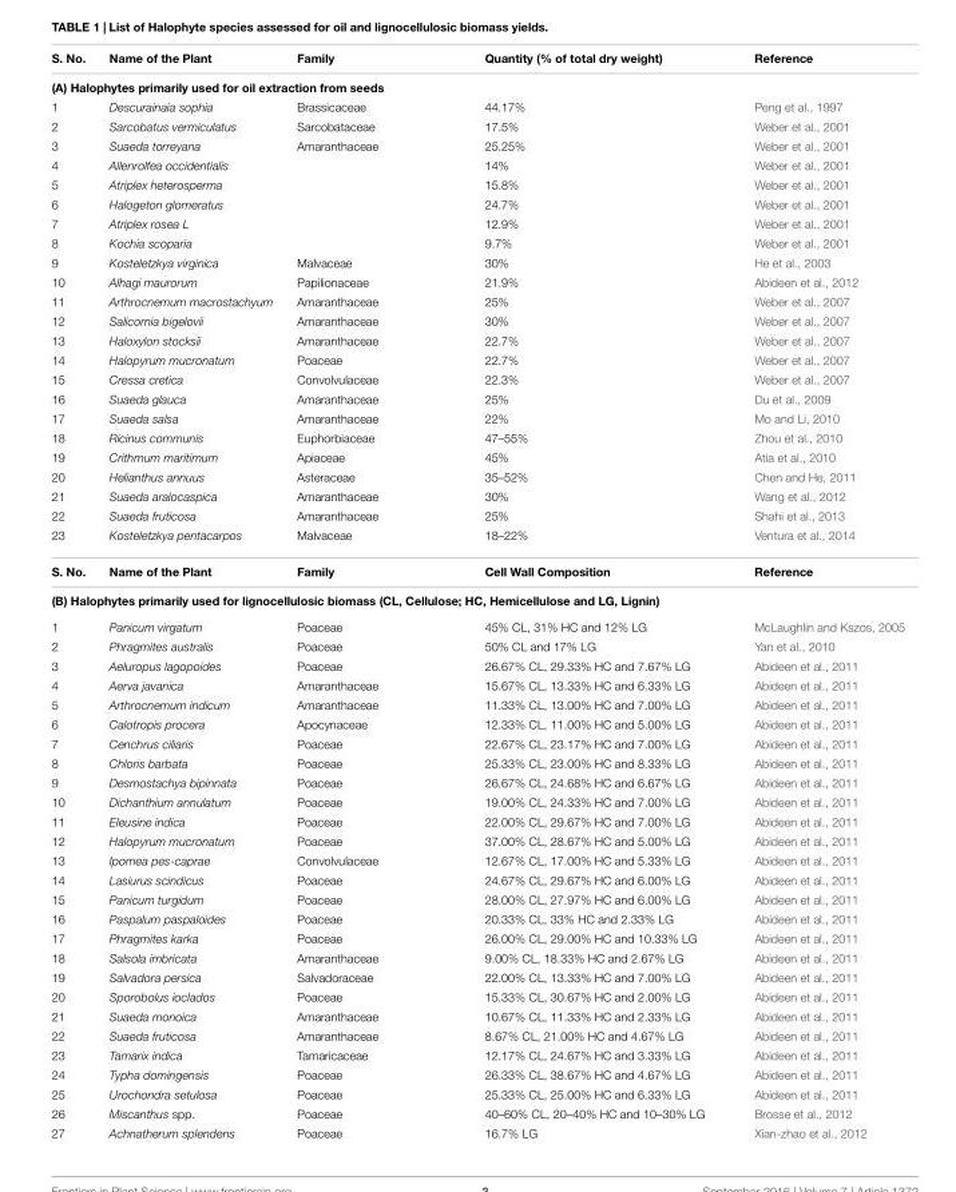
<table><thead><tr><td>S. No.</td><td>Name of the Plant</td><td>Family</td><td>Quantity (% of total dry weight)</td><td>Reference</td></tr></thead><tbody><tr><td colspan="5">(A) Halophytes primarily used for oil extraction from seeds</td></tr><tr><td>1</td><td>Descurainaia sophia</td><td>Brassicaceae</td><td>44.17%</td><td>Peng et al., 1997</td></tr><tr><td>2</td><td>Sarcobatus vermiculatus</td><td>Sarcobataceae</td><td>17.5%</td><td>Weber et al., 2001</td></tr><tr><td>3</td><td>Suaeda torreyana</td><td>Amaranthaceae</td><td>25.25%</td><td>Weber et al., 2001</td></tr><tr><td>4</td><td>Allenrolfea occidentialis</td><td></td><td>14%</td><td>Weber et al., 2001</td></tr><tr><td>5</td><td>Atriplex heterosperma</td><td></td><td>15.8%</td><td>Weber et al., 2001</td></tr><tr><td>6</td><td>Halogeton glomeratus</td><td></td><td>24.7%</td><td>Weber et al., 2001</td></tr><tr><td>7</td><td>Atriplex rosea L</td><td></td><td>12.9%</td><td>Weber et al., 2001</td></tr><tr><td>8</td><td>Kochia scoparia</td><td></td><td>9.7%</td><td>Weber et al., 2001</td></tr><tr><td>9</td><td>Kosteletzkya virginica</td><td>Malvaceae</td><td>30%</td><td>He et al., 2003</td></tr><tr><td>10</td><td>Alhagi maurorum</td><td>Papilionaceae</td><td>21.9%</td><td>Abideen et al., 2012</td></tr><tr><td>11</td><td>Arthrocnemum macrostachyum</td><td>Amaranthaceae</td><td>25%</td><td>Weber et al., 2007</td></tr><tr><td>12</td><td>Salicornia bigelovii</td><td>Amaranthaceae</td><td>30%</td><td>Weber et al., 2007</td></tr><tr><td>13</td><td>Haloxylon stocksii</td><td>Amaranthaceae</td><td>22.7%</td><td>Weber et al., 2007</td></tr><tr><td>14</td><td>Halopyrum mucronatum</td><td>Poaceae</td><td>22.7%</td><td>Weber et al., 2007</td></tr><tr><td>15</td><td>Cressa cretica</td><td>Convolvulaceae</td><td>22.3%</td><td>Weber et al., 2007</td></tr><tr><td>16</td><td>Suaeda glauca</td><td>Amaranthaceae</td><td>25%</td><td>Du et al., 2009</td></tr><tr><td>17</td><td>Suaeda salsa</td><td>Amaranthaceae</td><td>22%</td><td>Mo and Li, 2010</td></tr><tr><td>18</td><td>Ricinus communis</td><td>Euphorbiaceae</td><td>47–55%</td><td>Zhou et al., 2010</td></tr><tr><td>19</td><td>Crithmum maritimum</td><td>Apiaceae</td><td>45%</td><td>Atia et al., 2010</td></tr><tr><td>20</td><td>Helianthus annuus</td><td>Asteraceae</td><td>35–52%</td><td>Chen and He, 2011</td></tr><tr><td>21</td><td>Suaeda aralocaspica</td><td>Amaranthaceae</td><td>30%</td><td>Wang et al., 2012</td></tr><tr><td>22</td><td>Suaeda fruticosa</td><td>Amaranthaceae</td><td>25%</td><td>Shahi et al., 2013</td></tr><tr><td>23</td><td>Kosteletzkya pentacarpos</td><td>Malvaceae</td><td>18–22%</td><td>Ventura et al., 2014</td></tr><tr><td>S. No.</td><td>Name of the Plant</td><td>Family</td><td>Cell Wall Composition</td><td>Reference</td></tr><tr><td colspan="5">(B) Halophytes primarily used for lignocellulosic biomass (CL, Cellulose; HC, Hemicellulose and LG, Lignin)</td></tr><tr><td>1</td><td>Panicum virgatum</td><td>Poaceae</td><td>45% CL, 31% HC and 12% LG</td><td>McLaughlin and Kszos, 2005</td></tr><tr><td>2</td><td>Phragmites australis</td><td>Poaceae</td><td>50% CL and 17% LG</td><td>Yan et al., 2010</td></tr><tr><td>3</td><td>Aeluropus lagopoides</td><td>Poaceae</td><td>26.67% CL, 29.33% HC and 7.67% LG</td><td>Abideen et al., 2011</td></tr><tr><td>4</td><td>Aerva javanica</td><td>Amaranthaceae</td><td>15.67% CL, 13.33% HC and 6.33% LG</td><td>Abideen et al., 2011</td></tr><tr><td>5</td><td>Arthrocnemum indicum</td><td>Amaranthaceae</td><td>11.33% CL, 13.00% HC and 7.00% LG</td><td>Abideen et al., 2011</td></tr><tr><td>6</td><td>Calotropis procera</td><td>Apocynaceae</td><td>12.33% CL, 11.00% HC and 5.00% LG</td><td>Abideen et al., 2011</td></tr><tr><td>7</td><td>Cenchrus ciliaris</td><td>Poaceae</td><td>22.67% CL, 23.17% HC and 7.00% LG</td><td>Abideen et al., 2011</td></tr><tr><td>8</td><td>Chloris barbata</td><td>Poaceae</td><td>25.33% CL, 23.00% HC and 8.33% LG</td><td>Abideen et al., 2011</td></tr><tr><td>9</td><td>Desmostachya bipinnata</td><td>Poaceae</td><td>26.67% CL, 24.68% HC and 6.67% LG</td><td>Abideen et al., 2011</td></tr><tr><td>10</td><td>Dichanthium annulatum</td><td>Poaceae</td><td>19.00% CL, 24.33% HC and 7.00% LG</td><td>Abideen et al., 2011</td></tr><tr><td>11</td><td>Eleusine indica</td><td>Poaceae</td><td>22.00% CL, 29.67% HC and 7.00% LG</td><td>Abideen et al., 2011</td></tr><tr><td>12</td><td>Halopyrum mucronatum</td><td>Poaceae</td><td>37.00% CL, 28.67% HC and 5.00% LG</td><td>Abideen et al., 2011</td></tr><tr><td>13</td><td>Ipomea pes-caprae</td><td>Convolvulaceae</td><td>12.67% CL, 17.00% HC and 5.33% LG</td><td>Abideen et al., 2011</td></tr><tr><td>14</td><td>Lasiurus scindicus</td><td>Poaceae</td><td>24.67% CL, 29.67% HC and 6.00% LG</td><td>Abideen et al., 2011</td></tr><tr><td>15</td><td>Panicum turgidum</td><td>Poaceae</td><td>28.00% CL, 27.97% HC and 6.00% LG</td><td>Abideen et al., 2011</td></tr><tr><td>16</td><td>Paspalum paspaloides</td><td>Poaceae</td><td>20.33% CL, 33% HC and 2.33% LG</td><td>Abideen et al., 2011</td></tr><tr><td>17</td><td>Phragmites karka</td><td>Poaceae</td><td>26.00% CL, 29.00% HC and 10.33% LG</td><td>Abideen et al., 2011</td></tr><tr><td>18</td><td>Salsola imbricata</td><td>Amaranthaceae</td><td>9.00% CL, 18.33% HC and 2.67% LG</td><td>Abideen et al., 2011</td></tr><tr><td>19</td><td>Salvadora persica</td><td>Salvadoraceae</td><td>22.00% CL, 13.33% HC and 7.00% LG</td><td>Abideen et al., 2011</td></tr><tr><td>20</td><td>Sporobolus ioclados</td><td>Poaceae</td><td>15.33% CL, 30.67% HC and 2.00% LG</td><td>Abideen et al., 2011</td></tr><tr><td>21</td><td>Suaeda monoica</td><td>Amaranthaceae</td><td>10.67% CL, 11.33% HC and 2.33% LG</td><td>Abideen et al., 2011</td></tr><tr><td>22</td><td>Suaeda fruticosa</td><td>Amaranthaceae</td><td>8.67% CL, 21.00% HC and 4.67% LG</td><td>Abideen et al., 2011</td></tr><tr><td>23</td><td>Tamarix indica</td><td>Tamaricaceae</td><td>12.17% CL, 24.67% HC and 3.33% LG</td><td>Abideen et al., 2011</td></tr><tr><td>24</td><td>Typha domingensis</td><td>Poaceae</td><td>26.33% CL, 38.67% HC and 4.67% LG</td><td>Abideen et al., 2011</td></tr><tr><td>25</td><td>Urochondra setulosa</td><td>Poaceae</td><td>25.33% CL, 25.00% HC and 6.33% LG</td><td>Abideen et al., 2011</td></tr><tr><td>26</td><td>Miscanthus spp.</td><td>Poaceae</td><td>40–60% CL, 20–40% HC and 10–30% LG</td><td>Brosse et al., 2012</td></tr><tr><td>27</td><td>Achnatherum splendens</td><td>Poaceae</td><td>16.7% LG</td><td>Xian-zhao et al., 2012</td></tr></tbody></table>